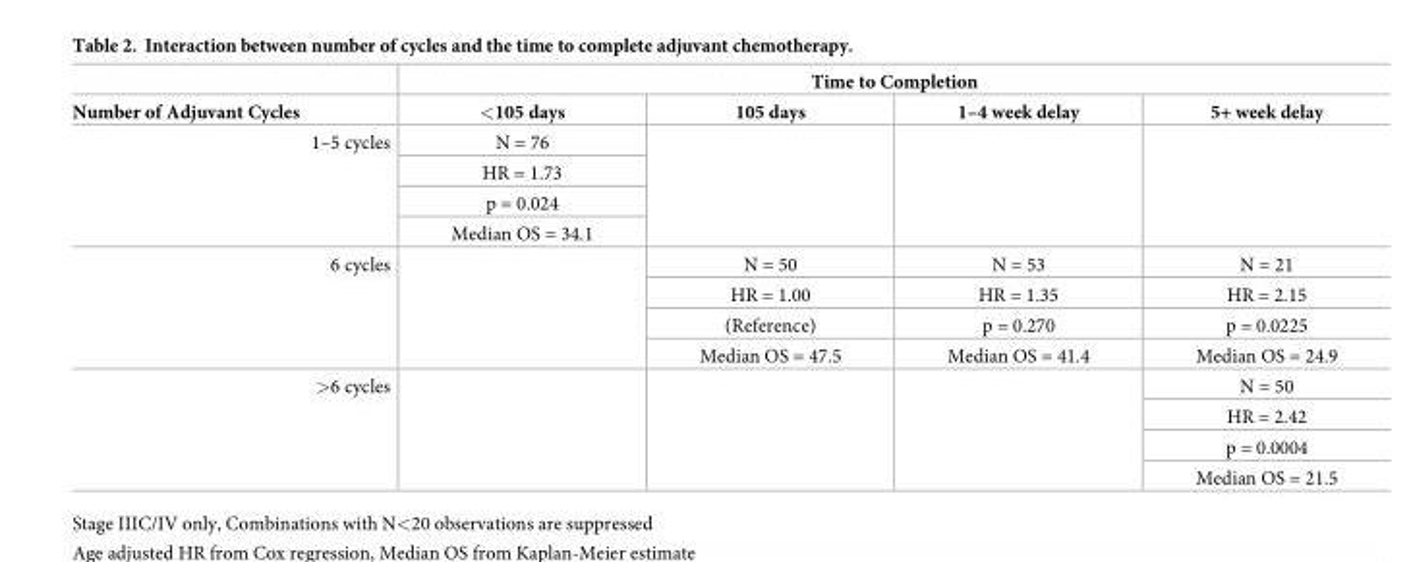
<table><thead><tr><td rowspan="2">Number of Adjuvant Cycles</td><td colspan="4">Time to Completion</td></tr><tr><td>&lt;105 days</td><td>105 days</td><td>1–4 week delay</td><td>5+ week delay</td></tr></thead><tbody><tr><td rowspan="4">1–5 cycles</td><td>N = 76</td><td rowspan="4"></td><td rowspan="4"></td><td rowspan="4"></td></tr><tr><td>HR = 1.73</td></tr><tr><td>p = 0.024</td></tr><tr><td>Median OS = 34.1</td></tr><tr><td rowspan="4">6 cycles</td><td rowspan="4"></td><td>N = 50</td><td>N = 53</td><td>N = 21</td></tr><tr><td>HR = 1.00</td><td>HR = 1.35</td><td>HR = 2.15</td></tr><tr><td>(Reference)</td><td>p = 0.270</td><td>p = 0.0225</td></tr><tr><td>Median OS = 47.5</td><td>Median OS = 41.4</td><td>Median OS = 24.9</td></tr><tr><td rowspan="4">&gt;6 cycles</td><td rowspan="4"></td><td rowspan="4"></td><td rowspan="4"></td><td>N = 50</td></tr><tr><td>HR = 2.42</td></tr><tr><td>p = 0.0004</td></tr><tr><td>Median OS = 21.5</td></tr></tbody></table>